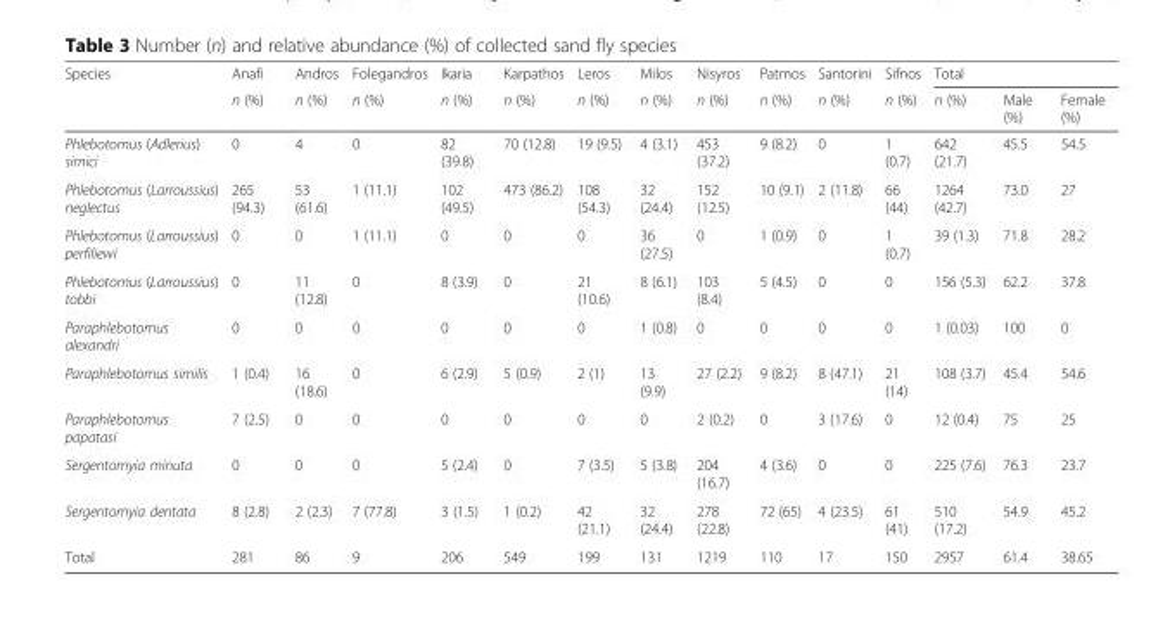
<table><thead><tr><td rowspan="2">Species</td><td rowspan="2">Anafi n (%)</td><td rowspan="2">Andros n (%)</td><td rowspan="2">Folegandros n (%)</td><td rowspan="2">Ikaria n (%)</td><td rowspan="2">Karpathos n (%)</td><td rowspan="2">Leros n (%)</td><td rowspan="2">Milos n (%)</td><td rowspan="2">Nisyros n (%)</td><td rowspan="2">Patmos n (%)</td><td rowspan="2">Santorini n (%)</td><td rowspan="2">Sifnos n (%)</td><td colspan="3">Total</td></tr><tr><td>n (%)</td><td>Male (%)</td><td>Female (%)</td></tr></thead><tbody><tr><td>Phlebotomus (Adlerius) simici</td><td>0</td><td>4</td><td>0</td><td>82 (39.8)</td><td>70 (12.8)</td><td>19 (9.5)</td><td>4 (3.1)</td><td>453 (37.2)</td><td>9 (8.2)</td><td>0</td><td>1 (0.7)</td><td>642 (21.7)</td><td>45.5</td><td>54.5</td></tr><tr><td>Phlebotomus (Larroussius) neglectus</td><td>265 (94.3)</td><td>53 (61.6)</td><td>1 (11.1)</td><td>102 (49.5)</td><td>473 (86.2)</td><td>108 (54.3)</td><td>32 (24.4)</td><td>152 (12.5)</td><td>10 (9.1)</td><td>2 (11.8)</td><td>66 (44)</td><td>1264 (42.7)</td><td>73.0</td><td>27</td></tr><tr><td>Phlebotomus (Larroussius) perfiliewi</td><td>0</td><td>0</td><td>1 (11.1)</td><td>0</td><td>0</td><td>0</td><td>36 (27.5)</td><td>0</td><td>1 (0.9)</td><td>0</td><td>1 (0.7)</td><td>39 (1.3)</td><td>71.8</td><td>28.2</td></tr><tr><td>Phlebotomus (Larroussius) tobbi</td><td>0</td><td>11 (12.8)</td><td>0</td><td>8 (3.9)</td><td>0</td><td>21 (10.6)</td><td>8 (6.1)</td><td>103 (8.4)</td><td>5 (4.5)</td><td>0</td><td>0</td><td>156 (5.3)</td><td>62.2</td><td>37.8</td></tr><tr><td>Paraphlebotomus alexandri</td><td>0</td><td>0</td><td>0</td><td>0</td><td>0</td><td>0</td><td>1 (0.8)</td><td>0</td><td>0</td><td>0</td><td>0</td><td>1 (0.03)</td><td>100</td><td>0</td></tr><tr><td>Paraphlebotomus similis</td><td>1 (0.4)</td><td>16 (18.6)</td><td>0</td><td>6 (2.9)</td><td>5 (0.9)</td><td>2 (1)</td><td>13 (9.9)</td><td>27 (2.2)</td><td>9 (8.2)</td><td>8 (47.1)</td><td>21 (14)</td><td>108 (3.7)</td><td>45.4</td><td>54.6</td></tr><tr><td>Paraphlebotomus papatasi</td><td>7 (2.5)</td><td>0</td><td>0</td><td>0</td><td>0</td><td>0</td><td>0</td><td>2 (0.2)</td><td>0</td><td>3 (17.6)</td><td>0</td><td>12 (0.4)</td><td>75</td><td>25</td></tr><tr><td>Sergentomyia minuta</td><td>0</td><td>0</td><td>0</td><td>5 (2.4)</td><td>0</td><td>7 (3.5)</td><td>5 (3.8)</td><td>204 (16.7)</td><td>4 (3.6)</td><td>0</td><td>0</td><td>225 (7.6)</td><td>76.3</td><td>23.7</td></tr><tr><td>Sergentomyia dentata</td><td>8 (2.8)</td><td>2 (2.3)</td><td>7 (77.8)</td><td>3 (1.5)</td><td>1 (0.2)</td><td>42 (21.1)</td><td>32 (24.4)</td><td>278 (22.8)</td><td>72 (65)</td><td>4 (23.5)</td><td>61 (41)</td><td>510 (17.2)</td><td>54.9</td><td>45.2</td></tr><tr><td>Total</td><td>281</td><td>86</td><td>9</td><td>206</td><td>549</td><td>199</td><td>131</td><td>1219</td><td>110</td><td>17</td><td>150</td><td>2957</td><td>61.4</td><td>38.65</td></tr></tbody></table>